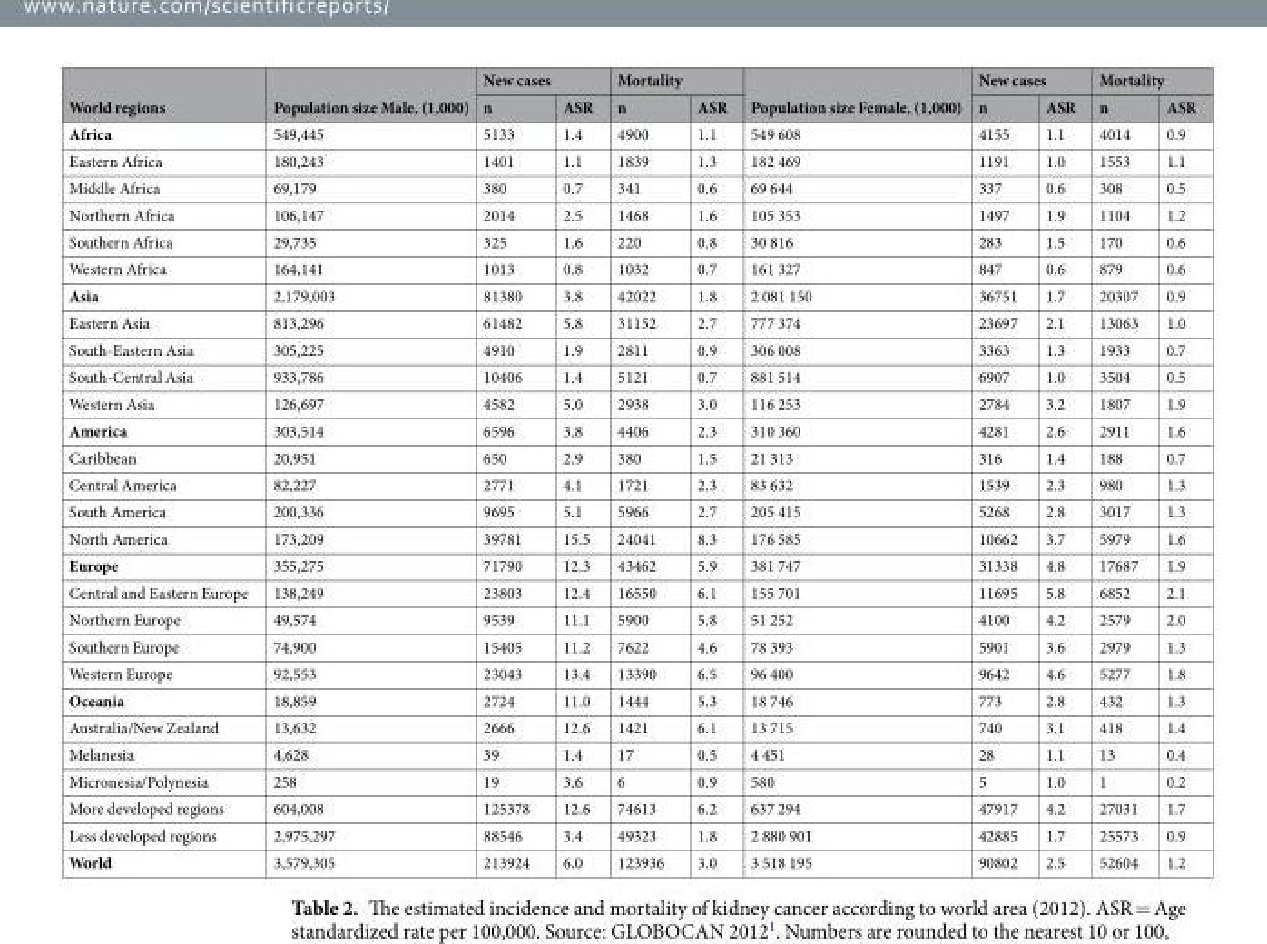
<table><thead><tr><td rowspan="2">World regions</td><td rowspan="2">Population size Male, (1,000)</td><td colspan="2">New cases</td><td colspan="2">Mortality</td><td rowspan="2">Population size Female, (1,000)</td><td colspan="2">New cases</td><td colspan="2">Mortality</td></tr><tr><td>n</td><td>ASR</td><td>n</td><td>ASR</td><td>n</td><td>ASR</td><td>n</td><td>ASR</td></tr></thead><tbody><tr><td>Africa</td><td>549,445</td><td>5133</td><td>1.4</td><td>4900</td><td>1.1</td><td>549 608</td><td>4155</td><td>1.1</td><td>4014</td><td>0.9</td></tr><tr><td>Eastern Africa</td><td>180,243</td><td>1401</td><td>1.1</td><td>1839</td><td>1.3</td><td>182 469</td><td>1191</td><td>1.0</td><td>1553</td><td>1.1</td></tr><tr><td>Middle Africa</td><td>69,179</td><td>380</td><td>0.7</td><td>341</td><td>0.6</td><td>69 644</td><td>337</td><td>0.6</td><td>308</td><td>0.5</td></tr><tr><td>Northern Africa</td><td>106,147</td><td>2014</td><td>2.5</td><td>1468</td><td>1.6</td><td>105 353</td><td>1497</td><td>1.9</td><td>1104</td><td>1.2</td></tr><tr><td>Southern Africa</td><td>29,735</td><td>325</td><td>1.6</td><td>220</td><td>0.8</td><td>30 816</td><td>283</td><td>1.5</td><td>170</td><td>0.6</td></tr><tr><td>Western Africa</td><td>164,141</td><td>1013</td><td>0.8</td><td>1032</td><td>0.7</td><td>161 327</td><td>847</td><td>0.6</td><td>879</td><td>0.6</td></tr><tr><td>Asia</td><td>2,179,003</td><td>81380</td><td>3.8</td><td>42022</td><td>1.8</td><td>2 081 150</td><td>36751</td><td>1.7</td><td>20307</td><td>0.9</td></tr><tr><td>Eastern Asia</td><td>813,296</td><td>61482</td><td>5.8</td><td>31152</td><td>2.7</td><td>777 374</td><td>23697</td><td>2.1</td><td>13063</td><td>1.0</td></tr><tr><td>South-Eastern Asia</td><td>305,225</td><td>4910</td><td>1.9</td><td>2811</td><td>0.9</td><td>306 008</td><td>3363</td><td>1.3</td><td>1933</td><td>0.7</td></tr><tr><td>South-Central Asia</td><td>933,786</td><td>10406</td><td>1.4</td><td>5121</td><td>0.7</td><td>881 514</td><td>6907</td><td>1.0</td><td>3504</td><td>0.5</td></tr><tr><td>Western Asia</td><td>126,697</td><td>4582</td><td>5.0</td><td>2938</td><td>3.0</td><td>116 253</td><td>2784</td><td>3.2</td><td>1807</td><td>1.9</td></tr><tr><td>America</td><td>303,514</td><td>6596</td><td>3.8</td><td>4406</td><td>2.3</td><td>310 360</td><td>4281</td><td>2.6</td><td>2911</td><td>1.6</td></tr><tr><td>Caribbean</td><td>20,951</td><td>650</td><td>2.9</td><td>380</td><td>1.5</td><td>21 313</td><td>316</td><td>1.4</td><td>188</td><td>0.7</td></tr><tr><td>Central America</td><td>82,227</td><td>2771</td><td>4.1</td><td>1721</td><td>2.3</td><td>83 632</td><td>1539</td><td>2.3</td><td>980</td><td>1.3</td></tr><tr><td>South America</td><td>200,336</td><td>9695</td><td>5.1</td><td>5966</td><td>2.7</td><td>205 415</td><td>5268</td><td>2.8</td><td>3017</td><td>1.3</td></tr><tr><td>North America</td><td>173,209</td><td>39781</td><td>15.5</td><td>24041</td><td>8.3</td><td>176 585</td><td>10662</td><td>3.7</td><td>5979</td><td>1.6</td></tr><tr><td>Europe</td><td>355,275</td><td>71790</td><td>12.3</td><td>43462</td><td>5.9</td><td>381 747</td><td>31338</td><td>4.8</td><td>17687</td><td>1.9</td></tr><tr><td>Central and Eastern Europe</td><td>138,249</td><td>23803</td><td>12.4</td><td>16550</td><td>6.1</td><td>155 701</td><td>11695</td><td>5.8</td><td>6852</td><td>2.1</td></tr><tr><td>Northern Europe</td><td>49,574</td><td>9539</td><td>11.1</td><td>5900</td><td>5.8</td><td>51 252</td><td>4100</td><td>4.2</td><td>2579</td><td>2.0</td></tr><tr><td>Southern Europe</td><td>74,900</td><td>15405</td><td>11.2</td><td>7622</td><td>4.6</td><td>78 393</td><td>5901</td><td>3.6</td><td>2979</td><td>1.3</td></tr><tr><td>Western Europe</td><td>92,553</td><td>23043</td><td>13.4</td><td>13390</td><td>6.5</td><td>96 400</td><td>9642</td><td>4.6</td><td>5277</td><td>1.8</td></tr><tr><td>Oceania</td><td>18,859</td><td>2724</td><td>11.0</td><td>1444</td><td>5.3</td><td>18 746</td><td>773</td><td>2.8</td><td>432</td><td>1.3</td></tr><tr><td>Australia/New Zealand</td><td>13,632</td><td>2666</td><td>12.6</td><td>1421</td><td>6.1</td><td>13 715</td><td>740</td><td>3.1</td><td>418</td><td>1.4</td></tr><tr><td>Melanesia</td><td>4,628</td><td>39</td><td>1.4</td><td>17</td><td>0.5</td><td>4 451</td><td>28</td><td>1.1</td><td>13</td><td>0.4</td></tr><tr><td>Micronesia/Polynesia</td><td>258</td><td>19</td><td>3.6</td><td>6</td><td>0.9</td><td>580</td><td>5</td><td>1.0</td><td>1</td><td>0.2</td></tr><tr><td>More developed regions</td><td>604,008</td><td>125378</td><td>12.6</td><td>74613</td><td>6.2</td><td>637 294</td><td>47917</td><td>4.2</td><td>27031</td><td>1.7</td></tr><tr><td>Less developed regions</td><td>2,975,297</td><td>88546</td><td>3.4</td><td>49323</td><td>1.8</td><td>2 880 901</td><td>42885</td><td>1.7</td><td>25573</td><td>0.9</td></tr><tr><td>World</td><td>3,579,305</td><td>213924</td><td>6.0</td><td>123936</td><td>3.0</td><td>3 518 195</td><td>90802</td><td>2.5</td><td>52604</td><td>1.2</td></tr></tbody></table>